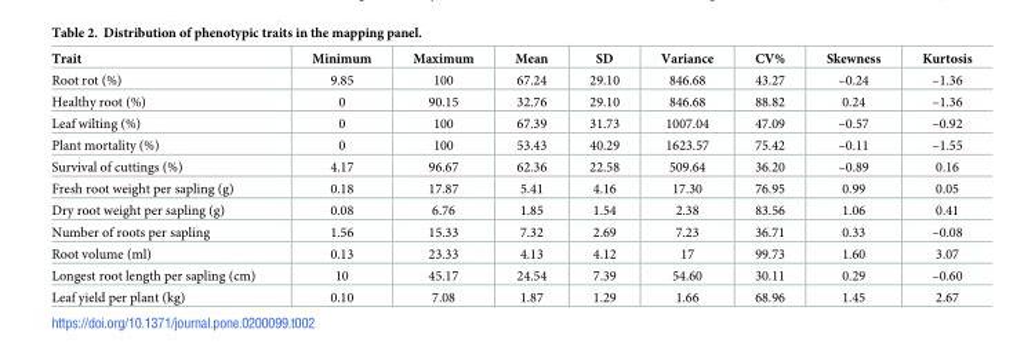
<table><thead><tr><td>Trait</td><td>Minimum</td><td>Maximum</td><td>Mean</td><td>SD</td><td>Variance</td><td>CV%</td><td>Skewness</td><td>Kurtosis</td></tr></thead><tbody><tr><td>Root rot (%)</td><td>9.85</td><td>100</td><td>67.24</td><td>29.10</td><td>846.68</td><td>43.27</td><td>–0.24</td><td>–1.36</td></tr><tr><td>Healthy root (%)</td><td>0</td><td>90.15</td><td>32.76</td><td>29.10</td><td>846.68</td><td>88.82</td><td>0.24</td><td>–1.36</td></tr><tr><td>Leaf wilting (%)</td><td>0</td><td>100</td><td>67.39</td><td>31.73</td><td>1007.04</td><td>47.09</td><td>–0.57</td><td>–0.92</td></tr><tr><td>Plant mortality (%)</td><td>0</td><td>100</td><td>53.43</td><td>40.29</td><td>1623.57</td><td>75.42</td><td>–0.11</td><td>–1.55</td></tr><tr><td>Survival of cuttings (%)</td><td>4.17</td><td>96.67</td><td>62.36</td><td>22.58</td><td>509.64</td><td>36.20</td><td>–0.89</td><td>0.16</td></tr><tr><td>Fresh root weight per sapling (g)</td><td>0.18</td><td>17.87</td><td>5.41</td><td>4.16</td><td>17.30</td><td>76.95</td><td>0.99</td><td>0.05</td></tr><tr><td>Dry root weight per sapling (g)</td><td>0.08</td><td>6.76</td><td>1.85</td><td>1.54</td><td>2.38</td><td>83.56</td><td>1.06</td><td>0.41</td></tr><tr><td>Number of roots per sapling</td><td>1.56</td><td>15.33</td><td>7.32</td><td>2.69</td><td>7.23</td><td>36.71</td><td>0.33</td><td>–0.08</td></tr><tr><td>Root volume (ml)</td><td>0.13</td><td>23.33</td><td>4.13</td><td>4.12</td><td>17</td><td>99.73</td><td>1.60</td><td>3.07</td></tr><tr><td>Longest root length per sapling (cm)</td><td>10</td><td>45.17</td><td>24.54</td><td>7.39</td><td>54.60</td><td>30.11</td><td>0.29</td><td>–0.60</td></tr><tr><td>Leaf yield per plant (kg)</td><td>0.10</td><td>7.08</td><td>1.87</td><td>1.29</td><td>1.66</td><td>68.96</td><td>1.45</td><td>2.67</td></tr></tbody></table>